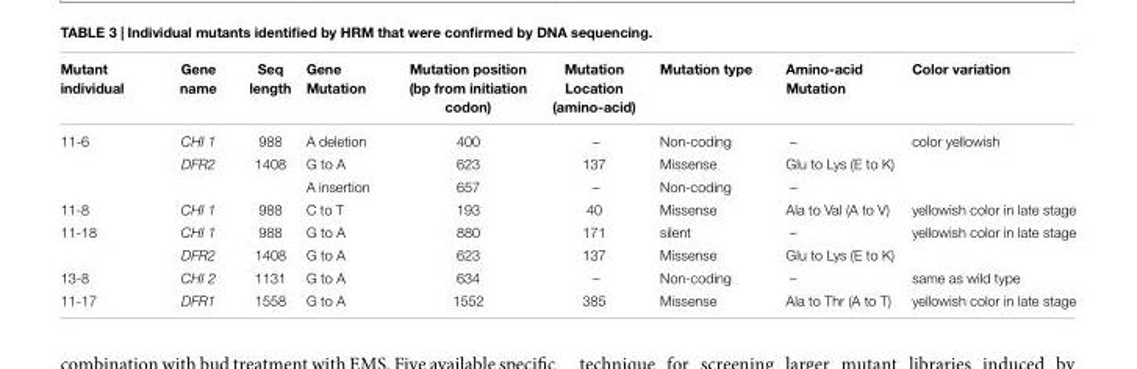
<table><thead><tr><td>Mutant individual</td><td>Gene name</td><td>Seq length</td><td>Gene Mutation</td><td>Mutation position (bp from initiation codon)</td><td>Mutation Location (amino-acid)</td><td>Mutation type</td><td>Amino-acid Mutation</td><td>Color variation</td></tr></thead><tbody><tr><td rowspan="3">11-6</td><td>CHI 1</td><td>988</td><td>A deletion</td><td>400</td><td>–</td><td>Non-coding</td><td>–</td><td>color yellowish</td></tr><tr><td>DFR2</td><td>1408</td><td>G to A</td><td>623</td><td>137</td><td>Missense</td><td>Glu to Lys (E to K)</td><td></td></tr><tr><td></td><td></td><td>A insertion</td><td>657</td><td>–</td><td>Non-coding</td><td>–</td><td></td></tr><tr><td>11-8</td><td>CHI 1</td><td>988</td><td>C to T</td><td>193</td><td>40</td><td>Missense</td><td>Ala to Val (A to V)</td><td>yellowish color in late stage</td></tr><tr><td rowspan="2">11-18</td><td>CHI 1</td><td>988</td><td>G to A</td><td>880</td><td>171</td><td>silent</td><td>–</td><td>yellowish color in late stage</td></tr><tr><td>DFR2</td><td>1408</td><td>G to A</td><td>623</td><td>137</td><td>Missense</td><td>Glu to Lys (E to K)</td><td></td></tr><tr><td>13-8</td><td>CHI 2</td><td>1131</td><td>G to A</td><td>634</td><td>–</td><td>Non-coding</td><td>–</td><td>same as wild type</td></tr><tr><td>11-17</td><td>DFR1</td><td>1558</td><td>G to A</td><td>1552</td><td>385</td><td>Missense</td><td>Ala to Thr (A to T)</td><td>yellowish color in late stage</td></tr></tbody></table>